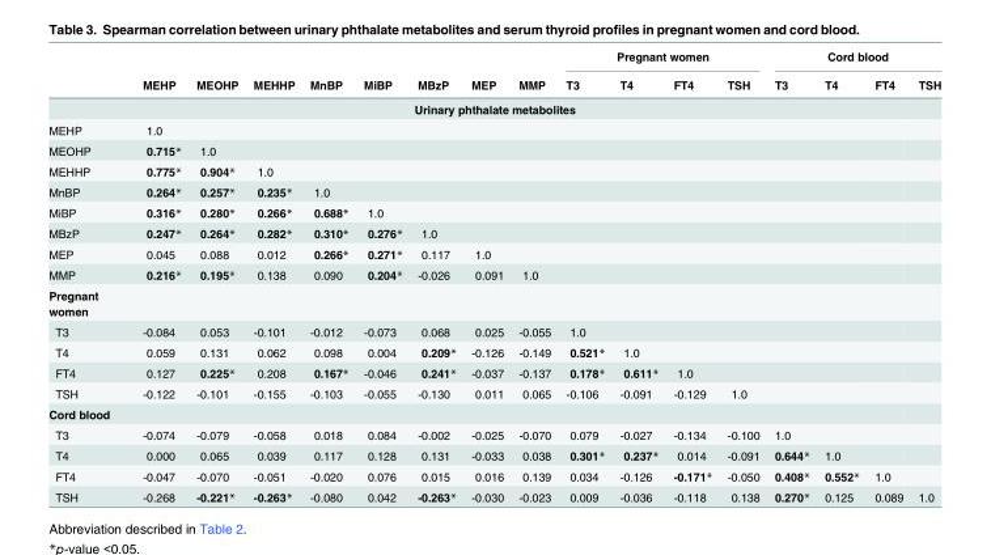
<table><thead><tr><td rowspan="2"></td><td rowspan="2">MEHP</td><td rowspan="2">MEOHP</td><td rowspan="2">MEHHP</td><td rowspan="2">MnBP</td><td rowspan="2">MiBP</td><td rowspan="2">MBzP</td><td rowspan="2">MEP</td><td rowspan="2">MMP</td><td colspan="4">Pregnant women</td><td colspan="4">Cord blood</td></tr><tr><td>T3</td><td>T4</td><td>FT4</td><td>TSH</td><td>T3</td><td>T4</td><td>FT4</td><td>TSH</td></tr></thead><tbody><tr><td colspan="17">Urinary phthalate metabolites</td></tr><tr><td>MEHP</td><td>1.0</td><td></td><td></td><td></td><td></td><td></td><td></td><td></td><td></td><td></td><td></td><td></td><td></td><td></td><td></td><td></td></tr><tr><td>MEOHP</td><td>0.715*</td><td>1.0</td><td></td><td></td><td></td><td></td><td></td><td></td><td></td><td></td><td></td><td></td><td></td><td></td><td></td><td></td></tr><tr><td>MEHHP</td><td>0.775*</td><td>0.904*</td><td>1.0</td><td></td><td></td><td></td><td></td><td></td><td></td><td></td><td></td><td></td><td></td><td></td><td></td><td></td></tr><tr><td>MnBP</td><td>0.264*</td><td>0.257*</td><td>0.235*</td><td>1.0</td><td></td><td></td><td></td><td></td><td></td><td></td><td></td><td></td><td></td><td></td><td></td><td></td></tr><tr><td>MiBP</td><td>0.316*</td><td>0.280*</td><td>0.266*</td><td>0.688*</td><td>1.0</td><td></td><td></td><td></td><td></td><td></td><td></td><td></td><td></td><td></td><td></td><td></td></tr><tr><td>MBzP</td><td>0.247*</td><td>0.264*</td><td>0.282*</td><td>0.310*</td><td>0.276*</td><td>1.0</td><td></td><td></td><td></td><td></td><td></td><td></td><td></td><td></td><td></td><td></td></tr><tr><td>MEP</td><td>0.045</td><td>0.088</td><td>0.012</td><td>0.266*</td><td>0.271*</td><td>0.117</td><td>1.0</td><td></td><td></td><td></td><td></td><td></td><td></td><td></td><td></td><td></td></tr><tr><td>MMP</td><td>0.216*</td><td>0.195*</td><td>0.138</td><td>0.090</td><td>0.204*</td><td>-0.026</td><td>0.091</td><td>1.0</td><td></td><td></td><td></td><td></td><td></td><td></td><td></td><td></td></tr><tr><td colspan="17">Pregnant women</td></tr><tr><td>T3</td><td>-0.084</td><td>0.053</td><td>-0.101</td><td>-0.012</td><td>-0.073</td><td>0.068</td><td>0.025</td><td>-0.055</td><td>1.0</td><td></td><td></td><td></td><td></td><td></td><td></td><td></td></tr><tr><td>T4</td><td>0.059</td><td>0.131</td><td>0.062</td><td>0.098</td><td>0.004</td><td>0.209*</td><td>-0.126</td><td>-0.149</td><td>0.521*</td><td>1.0</td><td></td><td></td><td></td><td></td><td></td><td></td></tr><tr><td>FT4</td><td>0.127</td><td>0.225*</td><td>0.208</td><td>0.167*</td><td>-0.046</td><td>0.241*</td><td>-0.037</td><td>-0.137</td><td>0.178*</td><td>0.611*</td><td>1.0</td><td></td><td></td><td></td><td></td><td></td></tr><tr><td>TSH</td><td>-0.122</td><td>-0.101</td><td>-0.155</td><td>-0.103</td><td>-0.055</td><td>-0.130</td><td>0.011</td><td>0.065</td><td>-0.106</td><td>-0.091</td><td>-0.129</td><td>1.0</td><td></td><td></td><td></td><td></td></tr><tr><td colspan="17">Cord blood</td></tr><tr><td>T3</td><td>-0.074</td><td>-0.079</td><td>-0.058</td><td>0.018</td><td>0.084</td><td>-0.002</td><td>-0.025</td><td>-0.070</td><td>0.079</td><td>-0.027</td><td>-0.134</td><td>-0.100</td><td>1.0</td><td></td><td></td><td></td></tr><tr><td>T4</td><td>0.000</td><td>0.065</td><td>0.039</td><td>0.117</td><td>0.128</td><td>0.131</td><td>-0.033</td><td>0.038</td><td>0.301*</td><td>0.237*</td><td>0.014</td><td>-0.091</td><td>0.644*</td><td>1.0</td><td></td><td></td></tr><tr><td>FT4</td><td>-0.047</td><td>-0.070</td><td>-0.051</td><td>-0.020</td><td>0.076</td><td>0.015</td><td>0.016</td><td>0.139</td><td>0.034</td><td>-0.126</td><td>-0.171*</td><td>-0.050</td><td>0.408*</td><td>0.552*</td><td>1.0</td><td></td></tr><tr><td>TSH</td><td>-0.268</td><td>-0.221*</td><td>-0.263*</td><td>-0.080</td><td>0.042</td><td>-0.263*</td><td>-0.030</td><td>-0.023</td><td>0.009</td><td>-0.036</td><td>-0.118</td><td>0.138</td><td>0.270*</td><td>0.125</td><td>0.089</td><td>1.0</td></tr></tbody></table>